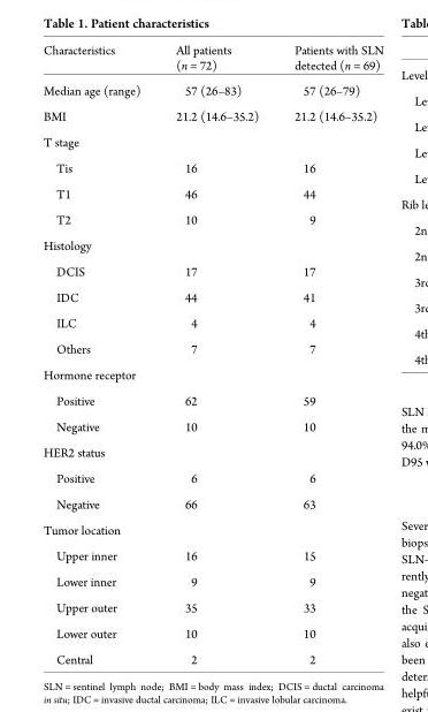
<table><thead><tr><td>Characteristics</td><td>All patients (n = 72)</td><td>Patients with SLN detected (n = 69)</td></tr></thead><tbody><tr><td>Median age (range)</td><td>57 (26–83)</td><td>57 (26–79)</td></tr><tr><td>BMI</td><td>21.2 (14.6–35.2)</td><td>21.2 (14.6–35.2)</td></tr><tr><td colspan="3">T stage</td></tr><tr><td>Tis</td><td>16</td><td>16</td></tr><tr><td>T1</td><td>46</td><td>44</td></tr><tr><td>T2</td><td>10</td><td>9</td></tr><tr><td colspan="3">Histology</td></tr><tr><td>DCIS</td><td>17</td><td>17</td></tr><tr><td>IDC</td><td>44</td><td>41</td></tr><tr><td>ILC</td><td>4</td><td>4</td></tr><tr><td>Others</td><td>7</td><td>7</td></tr><tr><td colspan="3">Hormone receptor</td></tr><tr><td>Positive</td><td>62</td><td>59</td></tr><tr><td>Negative</td><td>10</td><td>10</td></tr><tr><td colspan="3">HER2 status</td></tr><tr><td>Positive</td><td>6</td><td>6</td></tr><tr><td>Negative</td><td>66</td><td>63</td></tr><tr><td colspan="3">Tumor location</td></tr><tr><td>Upper inner</td><td>16</td><td>15</td></tr><tr><td>Lower inner</td><td>9</td><td>9</td></tr><tr><td>Upper outer</td><td>35</td><td>33</td></tr><tr><td>Lower outer</td><td>10</td><td>10</td></tr><tr><td>Central</td><td>2</td><td>2</td></tr></tbody></table>